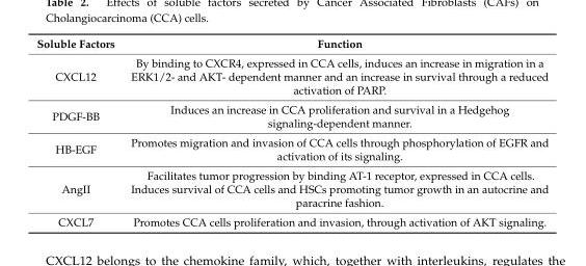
<table><thead><tr><td>Soluble Factors</td><td>Function</td></tr></thead><tbody><tr><td>CXCL12</td><td>By binding to CXCR4, expressed in CCA cells, induces an increase in migration in a ERK1/2- and AKT- dependent manner and an increase in survival through a reduced activation of PARP.</td></tr><tr><td>PDGF-BB</td><td>Induces an increase in CCA proliferation and survival in a Hedgehog signaling-dependent manner.</td></tr><tr><td>HB-EGF</td><td>Promotes migration and invasion of CCA cells through phosphorylation of EGFR and activation of its signaling.</td></tr><tr><td>AngII</td><td>Facilitates tumor progression by binding AT-1 receptor, expressed in CCA cells. Induces survival of CCA cells and HSCs promoting tumor growth in an autocrine and paracrine fashion.</td></tr><tr><td>CXCL7</td><td>Promotes CCA cells proliferation and invasion, through activation of AKT signaling.</td></tr></tbody></table>